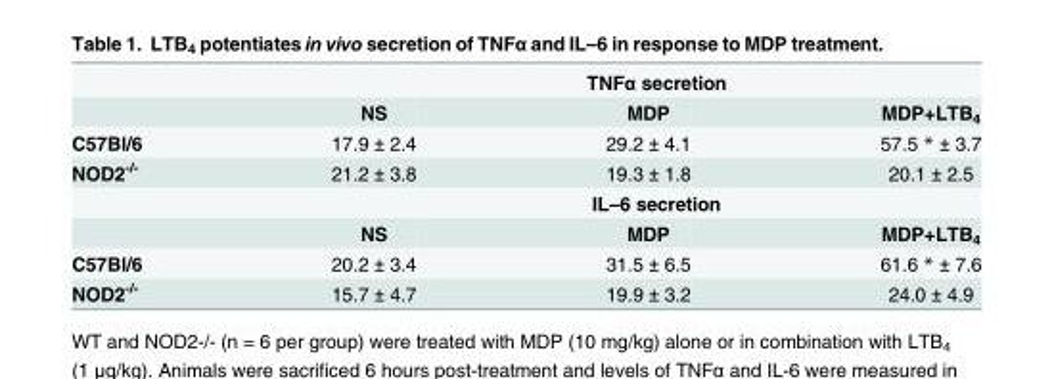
<table><thead><tr><td rowspan="2"></td><td colspan="3">TNFα secretion</td></tr><tr><td>NS</td><td>MDP</td><td>MDP+LTB<sub>4</sub></td></tr></thead><tbody><tr><td>C57Bl/6</td><td>17.9 ± 2.4</td><td>29.2 ± 4.1</td><td>57.5 * ± 3.7</td></tr><tr><td rowspan="3">NOD2<sup>-/-</sup></td><td>21.2 ± 3.8</td><td>19.3 ± 1.8</td><td>20.1 ± 2.5</td></tr><tr><td colspan="3">IL–6 secretion</td></tr><tr><td>NS</td><td>MDP</td><td>MDP+LTB<sub>4</sub></td></tr><tr><td>C57Bl/6</td><td>20.2 ± 3.4</td><td>31.5 ± 6.5</td><td>61.6 * ± 7.6</td></tr><tr><td>NOD2<sup>-/-</sup></td><td>15.7 ± 4.7</td><td>19.9 ± 3.2</td><td>24.0 ± 4.9</td></tr></tbody></table>